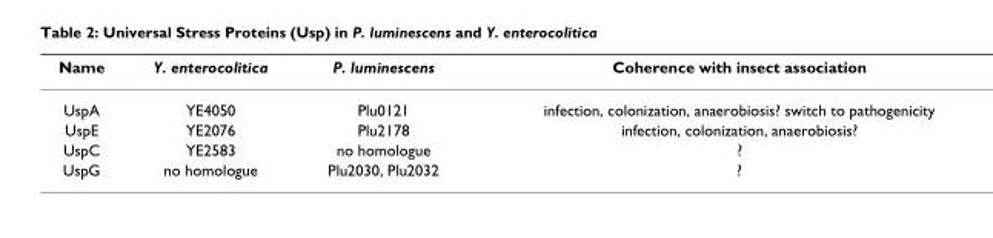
<table><thead><tr><td>Name</td><td>Y. enterocolitica</td><td>P. luminescens</td><td>Coherence with insect association</td></tr></thead><tbody><tr><td>UspA</td><td>YE4050</td><td>Plu0121</td><td>infection, colonization, anaerobiosis? switch to pathogenicity</td></tr><tr><td>UspE</td><td>YE2076</td><td>Plu2178</td><td>infection, colonization, anaerobiosis?</td></tr><tr><td>UspC</td><td>YE2583</td><td>no homologue</td><td>?</td></tr><tr><td>UspG</td><td>no homologue</td><td>Plu2030, Plu2032</td><td>?</td></tr></tbody></table>